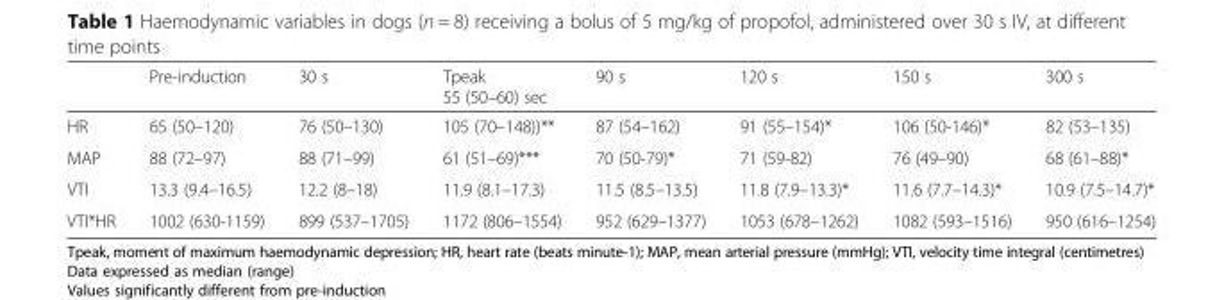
<table><thead><tr><td></td><td>Pre-induction</td><td>30 s</td><td>Tpeak 55 (50–60) sec</td><td>90 s</td><td>120 s</td><td>150 s</td><td>300 s</td></tr></thead><tbody><tr><td>HR</td><td>65 (50–120)</td><td>76 (50–130)</td><td>105 (70–148))**</td><td>87 (54–162)</td><td>91 (55–154)*</td><td>106 (50-146)*</td><td>82 (53–135)</td></tr><tr><td>MAP</td><td>88 (72–97)</td><td>88 (71–99)</td><td>61 (51–69)***</td><td>70 (50-79)*</td><td>71 (59-82)</td><td>76 (49–90)</td><td>68 (61–88)*</td></tr><tr><td>VTI</td><td>13.3 (9.4–16.5)</td><td>12.2 (8–18)</td><td>11.9 (8.1–17.3)</td><td>11.5 (8.5–13.5)</td><td>11.8 (7.9–13.3)*</td><td>11.6 (7.7–14.3)*</td><td>10.9 (7.5–14.7)*</td></tr><tr><td>VTI*HR</td><td>1002 (630-1159)</td><td>899 (537–1705)</td><td>1172 (806–1554)</td><td>952 (629–1377)</td><td>1053 (678–1262)</td><td>1082 (593–1516)</td><td>950 (616–1254)</td></tr></tbody></table>